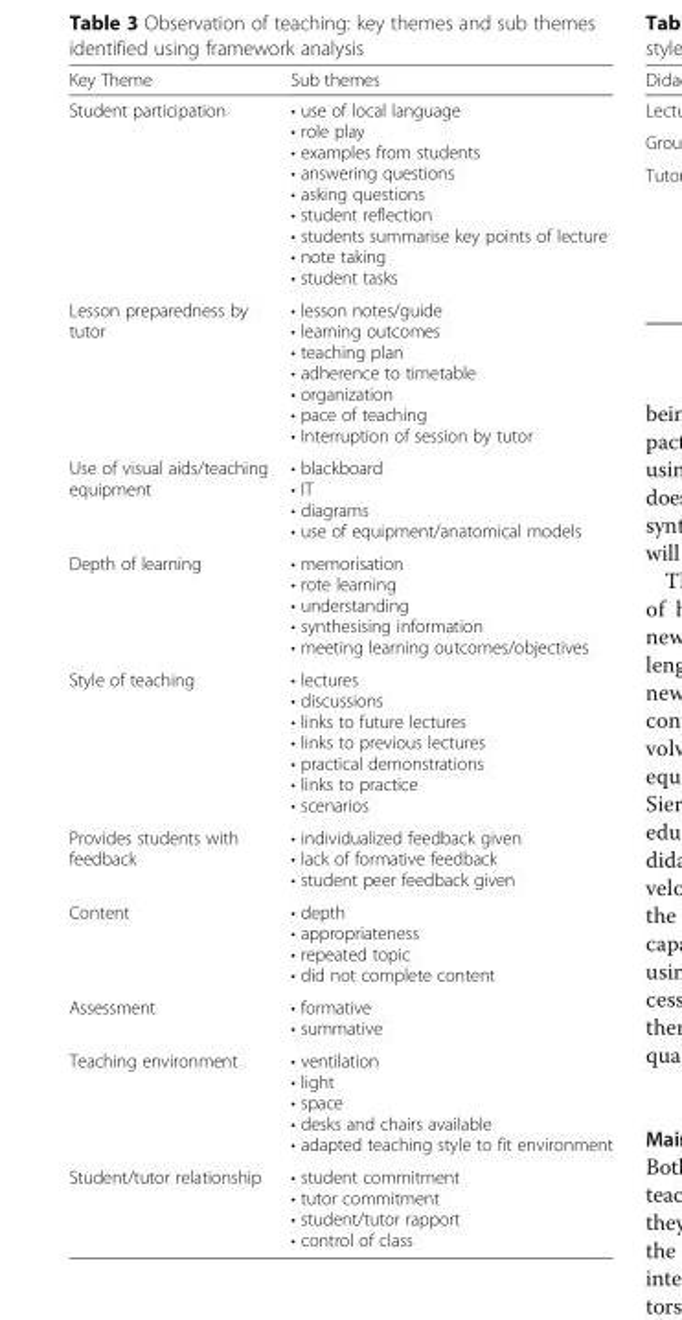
<table><thead><tr><td>Key Theme</td><td>Sub themes</td></tr></thead><tbody><tr><td>Student participation</td><td>• use of local language • role play • examples from students • answering questions • asking questions • student reflection • students summarise key points of lecture • note taking • student tasks</td></tr><tr><td>Lesson preparedness by tutor</td><td>• lesson notes/guide • learning outcomes • teaching plan • adherence to timetable • organization • pace of teaching • Interruption of session by tutor</td></tr><tr><td>Use of visual aids/teaching equipment</td><td>• blackboard • IT • diagrams • use of equipment/anatomical models</td></tr><tr><td>Depth of learning</td><td>• memorisation • rote learning • understanding • synthesising information • meeting learning outcomes/objectives</td></tr><tr><td>Style of teaching</td><td>• lectures • discussions • links to future lectures • links to previous lectures • practical demonstrations • links to practice • scenarios</td></tr><tr><td>Provides students with feedback</td><td>• individualized feedback given • lack of formative feedback • student peer feedback given</td></tr><tr><td>Content</td><td>• depth • appropriateness • repeated topic • did not complete content</td></tr><tr><td>Assessment</td><td>• formative • summative</td></tr><tr><td>Teaching environment</td><td>• ventilation • light • space • desks and chairs available • adapted teaching style to fit environment</td></tr><tr><td>Student/tutor relationship</td><td>• student commitment • tutor commitment • student/tutor rapport • control of class</td></tr></tbody></table>